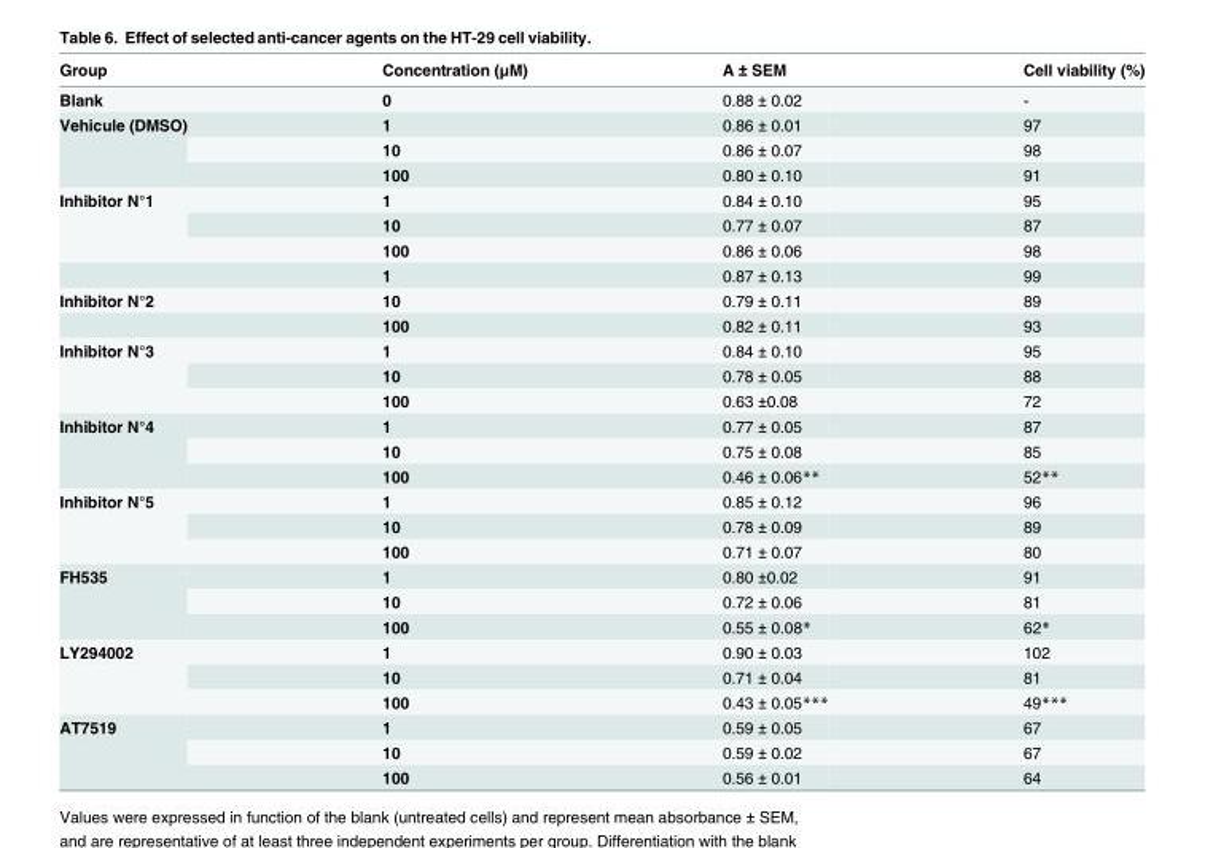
<table><thead><tr><td>Group</td><td>Concentration (μM)</td><td>A ± SEM</td><td>Cell viability (%)</td></tr></thead><tbody><tr><td>Blank</td><td>0</td><td>0.88 ± 0.02</td><td>-</td></tr><tr><td rowspan="3">Vehicule (DMSO)</td><td>1</td><td>0.86 ± 0.01</td><td>97</td></tr><tr><td>10</td><td>0.86 ± 0.07</td><td>98</td></tr><tr><td>100</td><td>0.80 ± 0.10</td><td>91</td></tr><tr><td rowspan="4">Inhibitor N°1</td><td>1</td><td>0.84 ± 0.10</td><td>95</td></tr><tr><td>10</td><td>0.77 ± 0.07</td><td>87</td></tr><tr><td>100</td><td>0.86 ± 0.06</td><td>98</td></tr><tr><td>1</td><td>0.87 ± 0.13</td><td>99</td></tr><tr><td rowspan="2">Inhibitor N°2</td><td>10</td><td>0.79 ± 0.11</td><td>89</td></tr><tr><td>100</td><td>0.82 ± 0.11</td><td>93</td></tr><tr><td rowspan="3">Inhibitor N°3</td><td>1</td><td>0.84 ± 0.10</td><td>95</td></tr><tr><td>10</td><td>0.78 ± 0.05</td><td>88</td></tr><tr><td>100</td><td>0.63 ±0.08</td><td>72</td></tr><tr><td rowspan="3">Inhibitor N°4</td><td>1</td><td>0.77 ± 0.05</td><td>87</td></tr><tr><td>10</td><td>0.75 ± 0.08</td><td>85</td></tr><tr><td>100</td><td>0.46 ± 0.06**</td><td>52**</td></tr><tr><td rowspan="3">Inhibitor N°5</td><td>1</td><td>0.85 ± 0.12</td><td>96</td></tr><tr><td>10</td><td>0.78 ± 0.09</td><td>89</td></tr><tr><td>100</td><td>0.71 ± 0.07</td><td>80</td></tr><tr><td rowspan="3">FH535</td><td>1</td><td>0.80 ±0.02</td><td>91</td></tr><tr><td>10</td><td>0.72 ± 0.06</td><td>81</td></tr><tr><td>100</td><td>0.55 ± 0.08*</td><td>62*</td></tr><tr><td rowspan="3">LY294002</td><td>1</td><td>0.90 ± 0.03</td><td>102</td></tr><tr><td>10</td><td>0.71 ± 0.04</td><td>81</td></tr><tr><td>100</td><td>0.43 ± 0.05***</td><td>49***</td></tr><tr><td rowspan="3">AT7519</td><td>1</td><td>0.59 ± 0.05</td><td>67</td></tr><tr><td>10</td><td>0.59 ± 0.02</td><td>67</td></tr><tr><td>100</td><td>0.56 ± 0.01</td><td>64</td></tr></tbody></table>